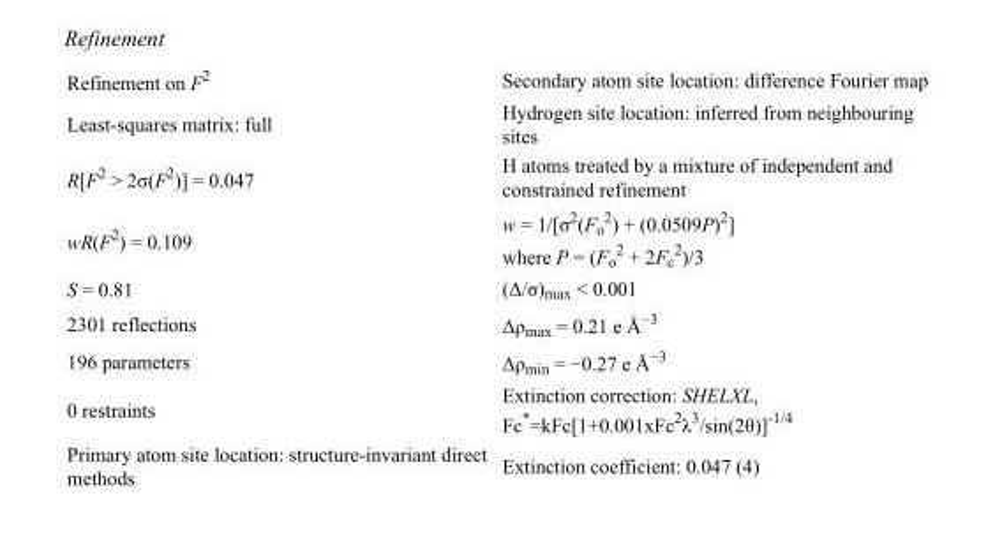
<table><tbody><tr><td>Refinement on F<sup>2</sup></td><td>Secondary atom site location: difference Fourier map</td></tr><tr><td>Least-squares matrix: full</td><td>Hydrogen site location: inferred from neighbouring sites</td></tr><tr><td>R[F<sup>2</sup> &gt; 2σ(F<sup>2</sup>)] = 0.047</td><td>H atoms treated by a mixture of independent and constrained refinement</td></tr><tr><td>wR(F<sup>2</sup>) = 0.109</td><td>w = 1/[σ<sup>2</sup>(F<sub>o</sub> <sup>2</sup>) + (0.0509P)<sup>2</sup>] where P = (F<sub>o</sub> <sup>2</sup> + 2F<sub>c</sub> <sup>2</sup>)/3</td></tr><tr><td>S = 0.81</td><td>(Δ/σ)<sub>max</sub> &lt; 0.001</td></tr><tr><td>2301 reflections</td><td>Δρ<sub>max</sub> = 0.21 e Å<sup>−3</sup></td></tr><tr><td>196 parameters</td><td>Δρ<sub>min</sub> = −0.27 e Å<sup>−3</sup></td></tr><tr><td>0 restraints</td><td>Extinction correction: SHELXL, Fc*=kFc[1+0.001xFc<sup>2</sup>λ<sup>3</sup>/sin(2θ)]<sup>-1/4</sup></td></tr><tr><td>Primary atom site location: structure-invariant direct methods</td><td>Extinction coefficient: 0.047 (4)</td></tr></tbody></table>